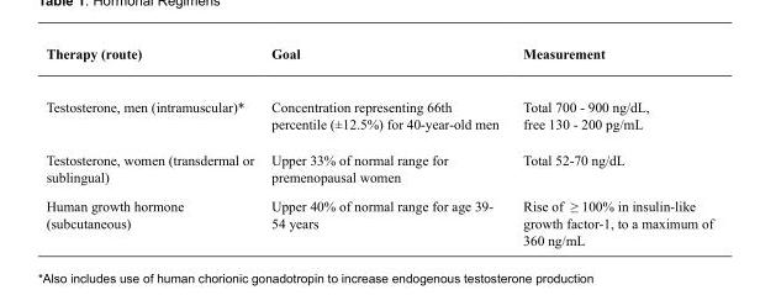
<table><thead><tr><td>Therapy (route)</td><td>Goal</td><td>Measurement</td></tr></thead><tbody><tr><td>Testosterone, men (intramuscular)*</td><td>Concentration representing 66th percentile (±12.5%) for 40-year-old men</td><td>Total 700 - 900 ng/dL, free 130 - 200 pg/mL</td></tr><tr><td>Testosterone, women (transdermal or sublingual)</td><td>Upper 33% of normal range for premenopausal women</td><td>Total 52-70 ng/dL</td></tr><tr><td>Human growth hormone (subcutaneous)</td><td>Upper 40% of normal range for age 39- 54 years</td><td>Rise of ≥ 100% in insulin-like growth factor-1, to a maximum of 360 ng/mL</td></tr></tbody></table>